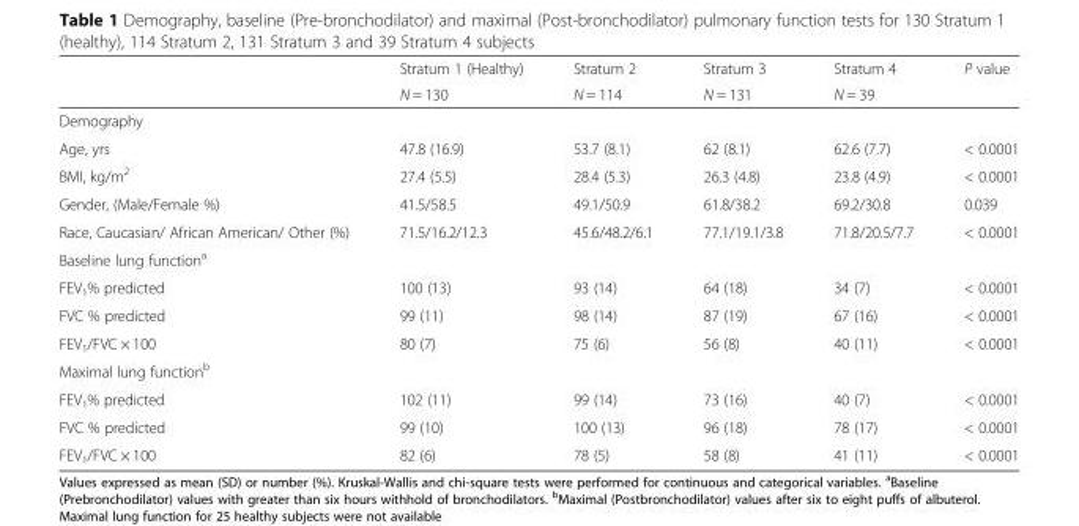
<table><thead><tr><td rowspan="2"></td><td rowspan="2">Stratum 1 (Healthy) N = 130</td><td rowspan="2">Stratum 2 N = 114</td><td rowspan="2">Stratum 3 N = 131</td><td rowspan="2">Stratum 4 N = 39</td><td rowspan="2">P value</td></tr><tr></tr></thead><tbody><tr><td colspan="6">Demography</td></tr><tr><td>Age, yrs</td><td>47.8 (16.9)</td><td>53.7 (8.1)</td><td>62 (8.1)</td><td>62.6 (7.7)</td><td>&lt; 0.0001</td></tr><tr><td>BMI, kg/m<sup>2</sup></td><td>27.4 (5.5)</td><td>28.4 (5.3)</td><td>26.3 (4.8)</td><td>23.8 (4.9)</td><td>&lt; 0.0001</td></tr><tr><td>Gender, (Male/Female %)</td><td>41.5/58.5</td><td>49.1/50.9</td><td>61.8/38.2</td><td>69.2/30.8</td><td>0.039</td></tr><tr><td>Race, Caucasian/ African American/ Other (%)</td><td>71.5/16.2/12.3</td><td>45.6/48.2/6.1</td><td>77.1/19.1/3.8</td><td>71.8/20.5/7.7</td><td>&lt; 0.0001</td></tr><tr><td colspan="6">Baseline lung function<sup>a</sup></td></tr><tr><td>FEV<sub>1</sub>% predicted</td><td>100 (13)</td><td>93 (14)</td><td>64 (18)</td><td>34 (7)</td><td>&lt; 0.0001</td></tr><tr><td>FVC % predicted</td><td>99 (11)</td><td>98 (14)</td><td>87 (19)</td><td>67 (16)</td><td>&lt; 0.0001</td></tr><tr><td>FEV<sub>1</sub>/FVC × 100</td><td>80 (7)</td><td>75 (6)</td><td>56 (8)</td><td>40 (11)</td><td>&lt; 0.0001</td></tr><tr><td colspan="6">Maximal lung function<sup>b</sup></td></tr><tr><td>FEV<sub>1</sub>% predicted</td><td>102 (11)</td><td>99 (14)</td><td>73 (16)</td><td>40 (7)</td><td>&lt; 0.0001</td></tr><tr><td>FVC % predicted</td><td>99 (10)</td><td>100 (13)</td><td>96 (18)</td><td>78 (17)</td><td>&lt; 0.0001</td></tr><tr><td>FEV<sub>1</sub>/FVC × 100</td><td>82 (6)</td><td>78 (5)</td><td>58 (8)</td><td>41 (11)</td><td>&lt; 0.0001</td></tr></tbody></table>